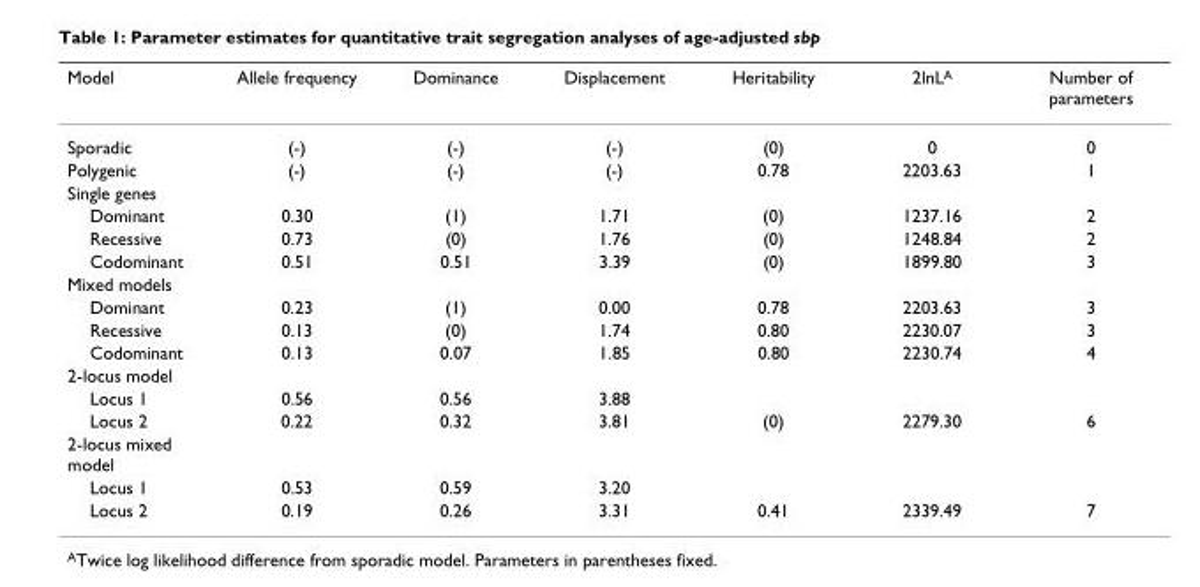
<table><thead><tr><td>Model</td><td>Allele frequency</td><td>Dominance</td><td>Displacement</td><td>Heritability</td><td>2lnLA</td><td>Number of parameters</td></tr></thead><tbody><tr><td>Sporadic</td><td>(-)</td><td>(-)</td><td>(-)</td><td>(0)</td><td>0</td><td>0</td></tr><tr><td>Polygenic</td><td>(-)</td><td>(-)</td><td>(-)</td><td>0.78</td><td>2203.63</td><td>1</td></tr><tr><td colspan="7">Single genes</td></tr><tr><td>Dominant</td><td>0.30</td><td>(1)</td><td>1.71</td><td>(0)</td><td>1237.16</td><td>2</td></tr><tr><td>Recessive</td><td>0.73</td><td>(0)</td><td>1.76</td><td>(0)</td><td>1248.84</td><td>2</td></tr><tr><td>Codominant</td><td>0.51</td><td>0.51</td><td>3.39</td><td>(0)</td><td>1899.80</td><td>3</td></tr><tr><td colspan="7">Mixed models</td></tr><tr><td>Dominant</td><td>0.23</td><td>(1)</td><td>0.00</td><td>0.78</td><td>2203.63</td><td>3</td></tr><tr><td>Recessive</td><td>0.13</td><td>(0)</td><td>1.74</td><td>0.80</td><td>2230.07</td><td>3</td></tr><tr><td>Codominant</td><td>0.13</td><td>0.07</td><td>1.85</td><td>0.80</td><td>2230.74</td><td>4</td></tr><tr><td colspan="7">2-locus model</td></tr><tr><td>Locus 1</td><td>0.56</td><td>0.56</td><td>3.88</td><td></td><td></td><td></td></tr><tr><td>Locus 2</td><td>0.22</td><td>0.32</td><td>3.81</td><td>(0)</td><td>2279.30</td><td>6</td></tr><tr><td colspan="7">2-locus mixed model</td></tr><tr><td>Locus 1</td><td>0.53</td><td>0.59</td><td>3.20</td><td></td><td></td><td></td></tr><tr><td>Locus 2</td><td>0.19</td><td>0.26</td><td>3.31</td><td>0.41</td><td>2339.49</td><td>7</td></tr></tbody></table>